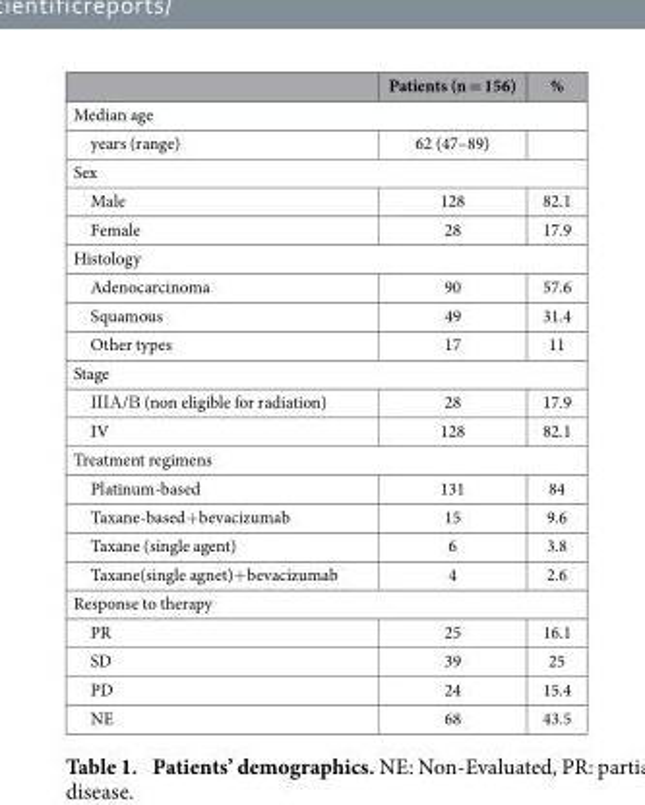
<table><thead><tr><td></td><td>Patients (n = 156)</td><td>%</td></tr></thead><tbody><tr><td colspan="3">Median age</td></tr><tr><td>years (range)</td><td>62 (47–89)</td><td></td></tr><tr><td colspan="3">Sex</td></tr><tr><td>Male</td><td>128</td><td>82.1</td></tr><tr><td>Female</td><td>28</td><td>17.9</td></tr><tr><td colspan="3">Histology</td></tr><tr><td>Adenocarcinoma</td><td>90</td><td>57.6</td></tr><tr><td>Squamous</td><td>49</td><td>31.4</td></tr><tr><td>Other types</td><td>17</td><td>11</td></tr><tr><td colspan="3">Stage</td></tr><tr><td>Ι Ι Ι Α /Β (non eligible for radiation)</td><td>28</td><td>17.9</td></tr><tr><td>IV</td><td>128</td><td>82.1</td></tr><tr><td colspan="3">Treatment regimens</td></tr><tr><td>Platinum-based</td><td>131</td><td>84</td></tr><tr><td>Taxane-based+ bevacizumab</td><td>15</td><td>9.6</td></tr><tr><td>Taxane (single agent)</td><td>6</td><td>3.8</td></tr><tr><td>Taxane(single agnet)+ bevacizumab</td><td>4</td><td>2.6</td></tr><tr><td colspan="3">Response to therapy</td></tr><tr><td>PR</td><td>25</td><td>16.1</td></tr><tr><td>SD</td><td>39</td><td>25</td></tr><tr><td>PD</td><td>24</td><td>15.4</td></tr><tr><td>NE</td><td>68</td><td>43.5</td></tr></tbody></table>